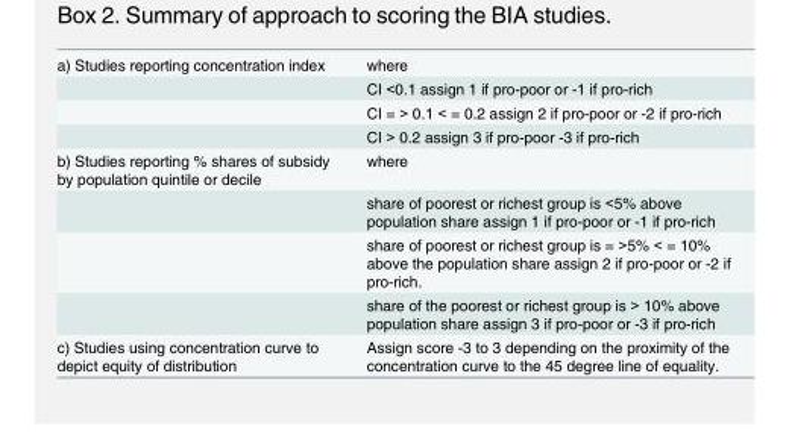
<table><tbody><tr><td rowspan="4">a) Studies reporting concentration index</td><td>where</td></tr><tr><td>CI &lt;0.1 assign 1 if pro-poor or -1 if pro-rich</td></tr><tr><td>CI = &gt; 0.1 &lt; = 0.2 assign 2 if pro-poor or -2 if pro-rich</td></tr><tr><td>CI &gt; 0.2 assign 3 if pro-poor -3 if pro-rich</td></tr><tr><td rowspan="4">b) Studies reporting % shares of subsidy by population quintile or decile</td><td>where</td></tr><tr><td>share of poorest or richest group is &lt;5% above population share assign 1 if pro-poor or -1 if pro-rich</td></tr><tr><td>share of poorest or richest group is = &gt;5% &lt; = 10% above the population share assign 2 if pro-poor or -2 if pro-rich.</td></tr><tr><td>share of the poorest or richest group is &gt; 10% above population share assign 3 if pro-poor or -3 if pro-rich</td></tr><tr><td>c) Studies using concentration curve to depict equity of distribution</td><td>Assign score -3 to 3 depending on the proximity of the concentration curve to the 45 degree line of equality.</td></tr></tbody></table>